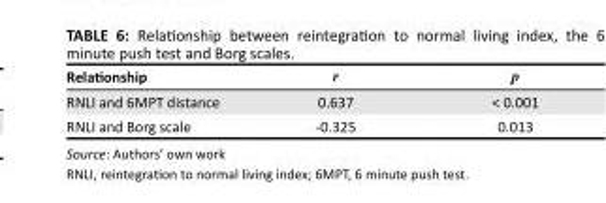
<table><thead><tr><td>Relationship</td><td>r</td><td>p</td></tr></thead><tbody><tr><td>RNLI and 6MPT distance</td><td>0.637</td><td>&lt; 0.001</td></tr><tr><td>RNLI and Borg scale</td><td>-0.325</td><td>0.013</td></tr></tbody></table>